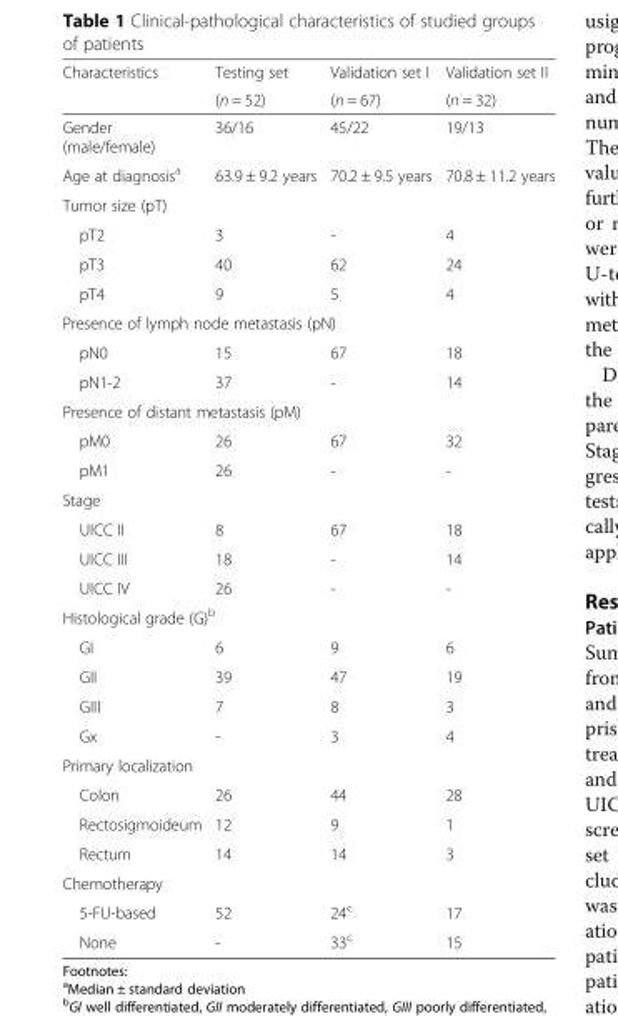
<table><thead><tr><td rowspan="2">Characteristics</td><td rowspan="2">Testing set (n = 52)</td><td rowspan="2">Validation set I (n = 67)</td><td rowspan="2">Validation set II (n = 32)</td></tr><tr></tr></thead><tbody><tr><td>Gender (male/female)</td><td>36/16</td><td>45/22</td><td>19/13</td></tr><tr><td>Age at diagnosis<sup>a</sup></td><td>63.9 ± 9.2 years</td><td>70.2 ± 9.5 years</td><td>70.8 ± 11.2 years</td></tr><tr><td colspan="4">Tumor size (pT)</td></tr><tr><td>pT2</td><td>3</td><td>-</td><td>4</td></tr><tr><td>pT3</td><td>40</td><td>62</td><td>24</td></tr><tr><td>pT4</td><td>9</td><td>5</td><td>4</td></tr><tr><td colspan="4">Presence of lymph node metastasis (pN)</td></tr><tr><td>pN0</td><td>15</td><td>67</td><td>18</td></tr><tr><td>pN1-2</td><td>37</td><td>-</td><td>14</td></tr><tr><td colspan="4">Presence of distant metastasis (pM)</td></tr><tr><td>pM0</td><td>26</td><td>67</td><td>32</td></tr><tr><td>pM1</td><td>26</td><td>-</td><td>-</td></tr><tr><td colspan="4">Stage</td></tr><tr><td>UICC II</td><td>8</td><td>67</td><td>18</td></tr><tr><td>UICC III</td><td>18</td><td>-</td><td>14</td></tr><tr><td>UICC IV</td><td>26</td><td>-</td><td>-</td></tr><tr><td colspan="4">Histological grade (G)<sup>b</sup></td></tr><tr><td>GI</td><td>6</td><td>9</td><td>6</td></tr><tr><td>GII</td><td>39</td><td>47</td><td>19</td></tr><tr><td>GIII</td><td>7</td><td>8</td><td>3</td></tr><tr><td>Gx</td><td>-</td><td>3</td><td>4</td></tr><tr><td colspan="4">Primary localization</td></tr><tr><td>Colon</td><td>26</td><td>44</td><td>28</td></tr><tr><td>Rectosigmoideum</td><td>12</td><td>9</td><td>1</td></tr><tr><td>Rectum</td><td>14</td><td>14</td><td>3</td></tr><tr><td colspan="4">Chemotherapy</td></tr><tr><td>5-FU-based</td><td>52</td><td>24<sup>c</sup></td><td>17</td></tr><tr><td>None</td><td>-</td><td>33<sup>c</sup></td><td>15</td></tr></tbody></table>